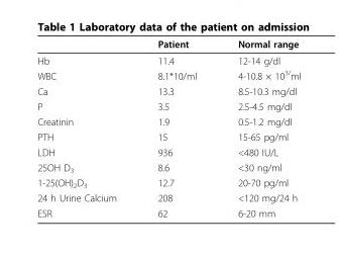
<table><thead><tr><td></td><td>Patient</td><td>Normal range</td></tr></thead><tbody><tr><td>Hb</td><td>11.4</td><td>12-14 g/dl</td></tr><tr><td>WBC</td><td>8.1*10/ml</td><td>4-10.8 × 10<sup>3/</sup>ml</td></tr><tr><td>Ca</td><td>13.3</td><td>8.5-10.3 mg/dl</td></tr><tr><td>P</td><td>3.5</td><td>2.5-4.5 mg/dl</td></tr><tr><td>Creatinin</td><td>1.9</td><td>0.5-1.2 mg/dl</td></tr><tr><td>PTH</td><td>15</td><td>15-65 pg/ml</td></tr><tr><td>LDH</td><td>936</td><td>&lt;480 IU/L</td></tr><tr><td>25OH D<sub>3</sub></td><td>8.6</td><td>&lt;30 ng/ml</td></tr><tr><td>1-25(OH)<sub>2</sub>D<sub>3</sub></td><td>12.7</td><td>20-70 pg/ml</td></tr><tr><td>24 h Urine Calcium</td><td>208</td><td>&lt;120 mg/24 h</td></tr><tr><td>ESR</td><td>62</td><td>6-20 mm</td></tr></tbody></table>